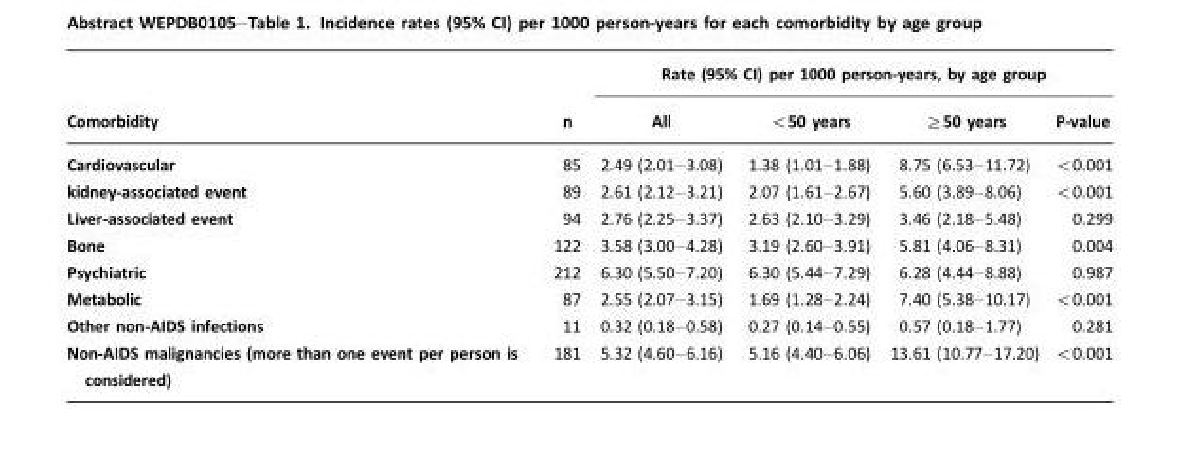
<table><thead><tr><td rowspan="2">Comorbidity</td><td rowspan="2">n</td><td colspan="4">Rate (95% CI) per 1000 person-years, by age group</td></tr><tr><td>All</td><td>&lt;50 years</td><td>≥50 years</td><td>P-value</td></tr></thead><tbody><tr><td>Cardiovascular</td><td>85</td><td>2.49 (2.01–3.08)</td><td>1.38 (1.01–1.88)</td><td>8.75 (6.53–11.72)</td><td>&lt;0.001</td></tr><tr><td>kidney-associated event</td><td>89</td><td>2.61 (2.12–3.21)</td><td>2.07 (1.61–2.67)</td><td>5.60 (3.89–8.06)</td><td>&lt;0.001</td></tr><tr><td>Liver-associated event</td><td>94</td><td>2.76 (2.25–3.37)</td><td>2.63 (2.10–3.29)</td><td>3.46 (2.18–5.48)</td><td>0.299</td></tr><tr><td>Bone</td><td>122</td><td>3.58 (3.00–4.28)</td><td>3.19 (2.60–3.91)</td><td>5.81 (4.06–8.31)</td><td>0.004</td></tr><tr><td>Psychiatric</td><td>212</td><td>6.30 (5.50–7.20)</td><td>6.30 (5.44–7.29)</td><td>6.28 (4.44–8.88)</td><td>0.987</td></tr><tr><td>Metabolic</td><td>87</td><td>2.55 (2.07–3.15)</td><td>1.69 (1.28–2.24)</td><td>7.40 (5.38–10.17)</td><td>&lt;0.001</td></tr><tr><td>Other non-AIDS infections</td><td>11</td><td>0.32 (0.18–0.58)</td><td>0.27 (0.14–0.55)</td><td>0.57 (0.18–1.77)</td><td>0.281</td></tr><tr><td>Non-AIDS malignancies (more than one event per person is considered)</td><td>181</td><td>5.32 (4.60–6.16)</td><td>5.16 (4.40–6.06)</td><td>13.61 (10.77–17.20)</td><td>&lt;0.001</td></tr></tbody></table>